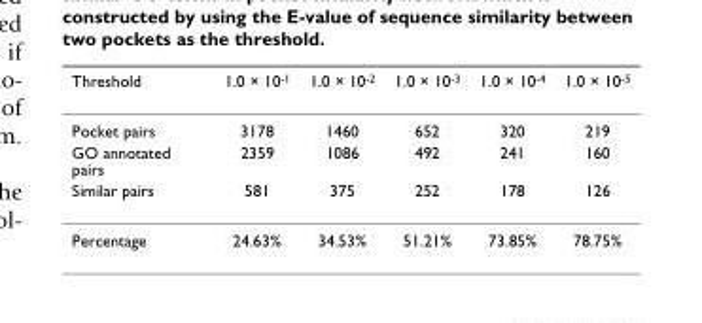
<table><thead><tr><td>Threshold</td><td>1.0 × 10<sup>-1</sup></td><td>1.0 × 10<sup>-2</sup></td><td>1.0 × 10<sup>-3</sup></td><td>1.0 × 10<sup>-4</sup></td><td>1.0 × 10<sup>-5</sup></td></tr></thead><tbody><tr><td>Pocket pairs</td><td>3178</td><td>1460</td><td>652</td><td>320</td><td>219</td></tr><tr><td>GO annotated pairs</td><td>2359</td><td>1086</td><td>492</td><td>241</td><td>160</td></tr><tr><td>Similar pairs</td><td>581</td><td>375</td><td>252</td><td>178</td><td>126</td></tr><tr><td>Percentage</td><td>24.63%</td><td>34.53%</td><td>51.21%</td><td>73.85%</td><td>78.75%</td></tr></tbody></table>